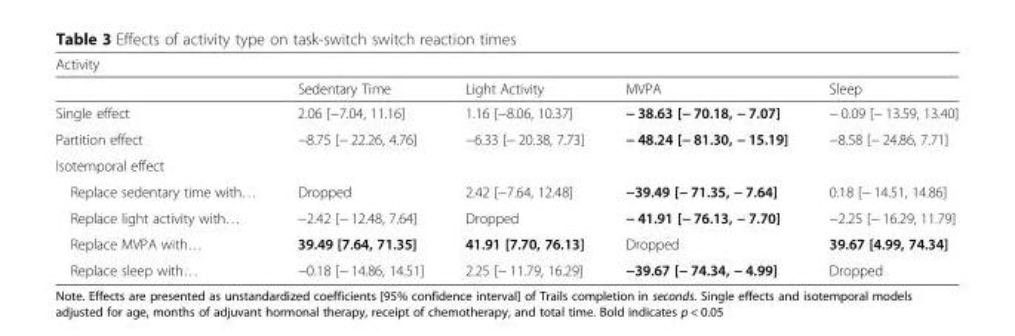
<table><thead><tr><td colspan="5">Activity</td></tr><tr><td></td><td>Sedentary Time</td><td>Light Activity</td><td>MVPA</td><td>Sleep</td></tr></thead><tbody><tr><td>Single effect</td><td>2.06 [−7.04, 11.16]</td><td>1.16 [−8.06, 10.37]</td><td>− 38.63 [− 70.18, − 7.07]</td><td>− 0.09 [− 13.59, 13.40]</td></tr><tr><td>Partition effect</td><td>−8.75 [− 22.26, 4.76]</td><td>−6.33 [− 20.38, 7.73]</td><td>− 48.24 [− 81.30, − 15.19]</td><td>−8.58 [− 24.86, 7.71]</td></tr><tr><td colspan="5">Isotemporal effect</td></tr><tr><td>Replace sedentary time with…</td><td>Dropped</td><td>2.42 [−7.64, 12.48]</td><td>−39.49 [− 71.35, − 7.64]</td><td>0.18 [− 14.51, 14.86]</td></tr><tr><td>Replace light activity with…</td><td>−2.42 [− 12.48, 7.64]</td><td>Dropped</td><td>− 41.91 [− 76.13, − 7.70]</td><td>−2.25 [− 16.29, 11.79]</td></tr><tr><td>Replace MVPA with…</td><td>39.49 [7.64, 71.35]</td><td>41.91 [7.70, 76.13]</td><td>Dropped</td><td>39.67 [4.99, 74.34]</td></tr><tr><td>Replace sleep with…</td><td>−0.18 [− 14.86, 14.51]</td><td>2.25 [− 11.79, 16.29]</td><td>−39.67 [− 74.34, − 4.99]</td><td>Dropped</td></tr></tbody></table>